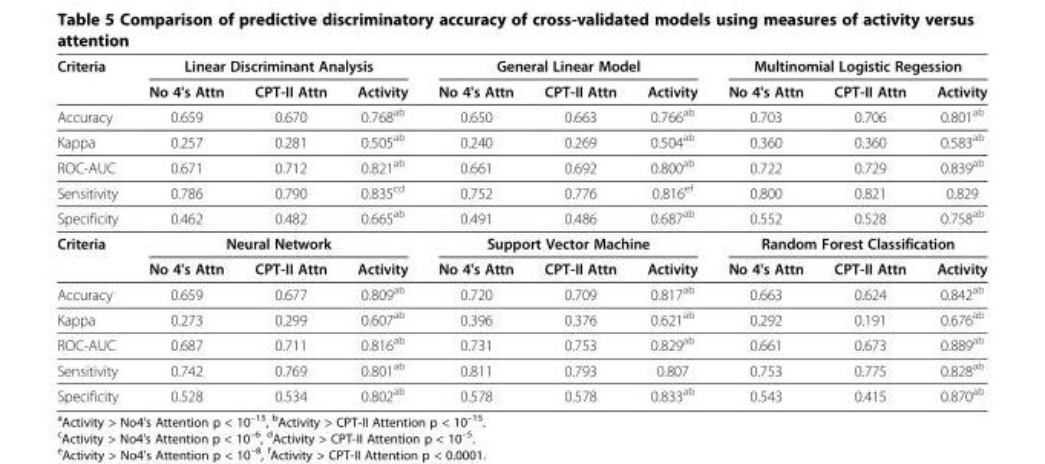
<table><thead><tr><td rowspan="2">Criteria</td><td colspan="3">Linear Discriminant Analysis</td><td colspan="3">General Linear Model</td><td colspan="3">Multinomial Logistic Regession</td></tr><tr><td>No 4&#x27;s Attn</td><td>CPT-II Attn</td><td>Activity</td><td>No 4&#x27;s Attn</td><td>CPT-II Attn</td><td>Activity</td><td>No 4&#x27;s Attn</td><td>CPT-II Attn</td><td>Activity</td></tr></thead><tbody><tr><td>Accuracy</td><td>0.659</td><td>0.670</td><td>0.768<sup>ab</sup></td><td>0.650</td><td>0.663</td><td>0.766<sup>ab</sup></td><td>0.703</td><td>0.706</td><td>0.801<sup>ab</sup></td></tr><tr><td>Kappa</td><td>0.257</td><td>0.281</td><td>0.505<sup>ab</sup></td><td>0.240</td><td>0.269</td><td>0.504<sup>ab</sup></td><td>0.360</td><td>0.360</td><td>0.583<sup>ab</sup></td></tr><tr><td>ROC-AUC</td><td>0.671</td><td>0.712</td><td>0.821<sup>ab</sup></td><td>0.661</td><td>0.692</td><td>0.800<sup>ab</sup></td><td>0.722</td><td>0.729</td><td>0.839<sup>ab</sup></td></tr><tr><td>Sensitivity</td><td>0.786</td><td>0.790</td><td>0.835<sup>cd</sup></td><td>0.752</td><td>0.776</td><td>0.816<sup>ef</sup></td><td>0.800</td><td>0.821</td><td>0.829</td></tr><tr><td>Specificity</td><td>0.462</td><td>0.482</td><td>0.665<sup>ab</sup></td><td>0.491</td><td>0.486</td><td>0.687<sup>ab</sup></td><td>0.552</td><td>0.528</td><td>0.758<sup>ab</sup></td></tr><tr><td rowspan="2">Criteria</td><td colspan="3">Neural Network</td><td colspan="3">Support Vector Machine</td><td colspan="3">Random Forest Classification</td></tr><tr><td>No 4&#x27;s Attn</td><td>CPT-II Attn</td><td>Activity</td><td>No 4&#x27;s Attn</td><td>CPT-II Attn</td><td>Activity</td><td>No 4&#x27;s Attn</td><td>CPT-II Attn</td><td>Activity</td></tr><tr><td>Accuracy</td><td>0.659</td><td>0.677</td><td>0.809<sup>ab</sup></td><td>0.720</td><td>0.709</td><td>0.817<sup>ab</sup></td><td>0.663</td><td>0.624</td><td>0.842<sup>ab</sup></td></tr><tr><td>Kappa</td><td>0.273</td><td>0.299</td><td>0.607<sup>ab</sup></td><td>0.396</td><td>0.376</td><td>0.621<sup>ab</sup></td><td>0.292</td><td>0.191</td><td>0.676<sup>ab</sup></td></tr><tr><td>ROC-AUC</td><td>0.687</td><td>0.711</td><td>0.816<sup>ab</sup></td><td>0.731</td><td>0.753</td><td>0.829<sup>ab</sup></td><td>0.661</td><td>0.673</td><td>0.889<sup>ab</sup></td></tr><tr><td>Sensitivity</td><td>0.742</td><td>0.769</td><td>0.801<sup>ab</sup></td><td>0.811</td><td>0.793</td><td>0.807</td><td>0.753</td><td>0.775</td><td>0.828<sup>ab</sup></td></tr><tr><td>Specificity</td><td>0.528</td><td>0.534</td><td>0.802<sup>ab</sup></td><td>0.578</td><td>0.578</td><td>0.833<sup>ab</sup></td><td>0.543</td><td>0.415</td><td>0.870<sup>ab</sup></td></tr></tbody></table>